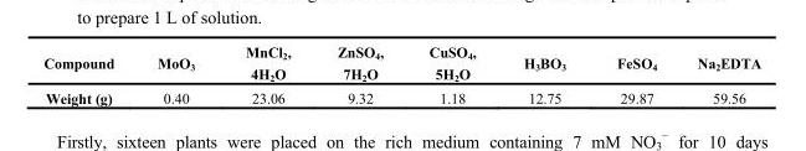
<table><thead><tr><td>Compound</td><td>MoO<sub>3</sub></td><td>MnCl<sub>2</sub>, 4H<sub>2</sub>O</td><td>ZnSO<sub>4</sub>, 7H<sub>2</sub>O</td><td>CuSO<sub>4</sub>, 5H<sub>2</sub>O</td><td>H<sub>3</sub>BO<sub>3</sub></td><td>FeSO<sub>4</sub></td><td>Na<sub>2</sub>EDTA</td></tr></thead><tbody><tr><td>Weight (g)</td><td>0.40</td><td>23.06</td><td>9.32</td><td>1.18</td><td>12.75</td><td>29.87</td><td>59.56</td></tr></tbody></table>